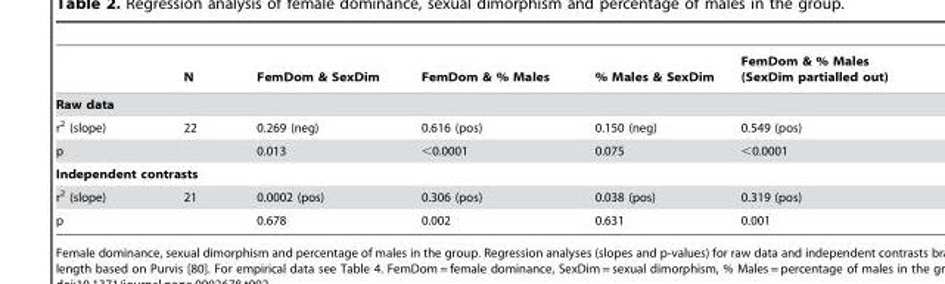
<table><thead><tr><td></td><td>N</td><td>FemDom &amp; SexDim</td><td>FemDom &amp; % Males</td><td>% Males &amp; SexDim</td><td>FemDom &amp; % Males (SexDim partialled out)</td></tr></thead><tbody><tr><td colspan="6">Raw data</td></tr><tr><td>r<sup>2</sup> (slope)</td><td>22</td><td>0.269 (neg)</td><td>0.616 (pos)</td><td>0.150 (neg)</td><td>0.549 (pos)</td></tr><tr><td>p</td><td></td><td>0.013</td><td>&lt;0.0001</td><td>0.075</td><td>&lt;0.0001</td></tr><tr><td colspan="6">Independent contrasts</td></tr><tr><td>r<sup>2</sup> (slope)</td><td>21</td><td>0.0002 (pos)</td><td>0.306 (pos)</td><td>0.038 (pos)</td><td>0.319 (pos)</td></tr><tr><td>p</td><td></td><td>0.678</td><td>0.002</td><td>0.631</td><td>0.001</td></tr></tbody></table>